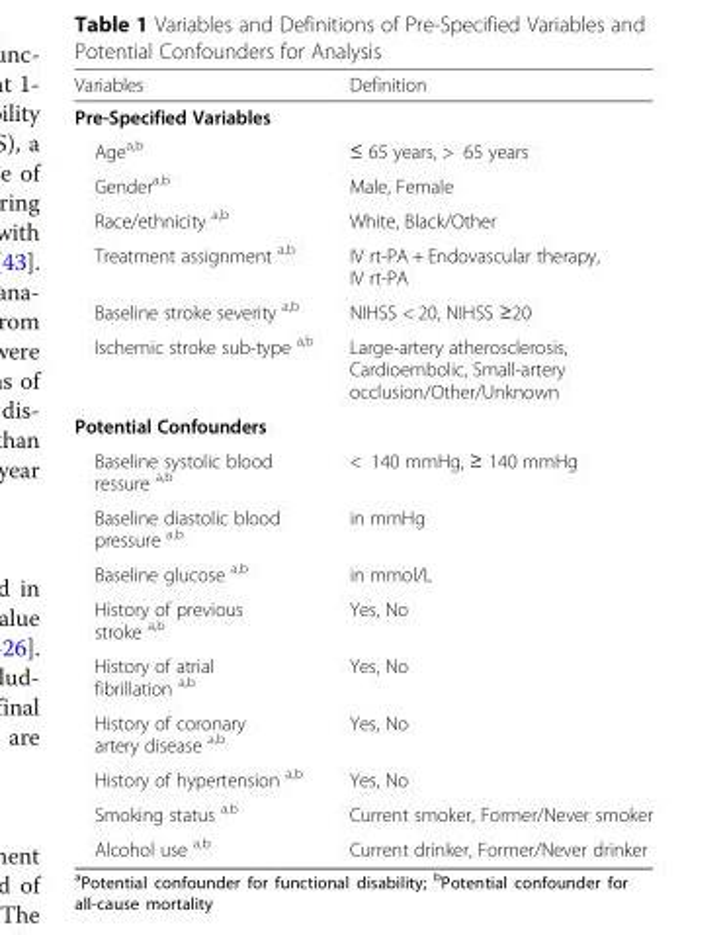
<table><thead><tr><td>Variables</td><td>Definition</td></tr></thead><tbody><tr><td colspan="2">Pre-Specified Variables</td></tr><tr><td>Age<sup>a,b</sup></td><td>≤ 65 years, &gt; 65 years</td></tr><tr><td>Gender<sup>a,b</sup></td><td>Male, Female</td></tr><tr><td>Race/ethnicity <sup>a,b</sup></td><td>White, Black/Other</td></tr><tr><td>Treatment assignment <sup>a,b</sup></td><td>IV rt-PA + Endovascular therapy, IV rt-PA</td></tr><tr><td>Baseline stroke severity <sup>a,b</sup></td><td>NIHSS &lt; 20, NIHSS ≥20</td></tr><tr><td>Ischemic stroke sub-type <sup>a,b</sup></td><td>Large-artery atherosclerosis, Cardioembolic, Small-artery occlusion/Other/Unknown</td></tr><tr><td colspan="2">Potential Confounders</td></tr><tr><td>Baseline systolic blood ressure <sup>a,b</sup></td><td>&lt; 140 mmHg, ≥ 140 mmHg</td></tr><tr><td>Baseline diastolic blood pressure <sup>a,b</sup></td><td>in mmHg</td></tr><tr><td>Baseline glucose <sup>a,b</sup></td><td>in mmol/L</td></tr><tr><td>History of previous stroke <sup>a,b</sup></td><td>Yes, No</td></tr><tr><td>History of atrial fibrillation <sup>a,b</sup></td><td>Yes, No</td></tr><tr><td>History of coronary artery disease <sup>a,b</sup></td><td>Yes, No</td></tr><tr><td>History of hypertension <sup>a,b</sup></td><td>Yes, No</td></tr><tr><td>Smoking status <sup>a,b</sup></td><td>Current smoker, Former/Never smoker</td></tr><tr><td>Alcohol use <sup>a,b</sup></td><td>Current drinker, Former/Never drinker</td></tr></tbody></table>